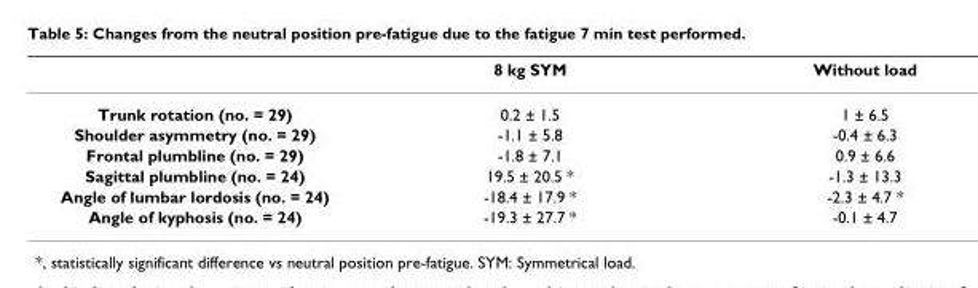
<table><thead><tr><td></td><td>8 kg SYM</td><td>Without load</td></tr></thead><tbody><tr><td>Trunk rotation (no. = 29)</td><td>0.2 ± 1.5</td><td>1 ± 6.5</td></tr><tr><td>Shoulder asymmetry (no. = 29)</td><td>-1.1 ± 5.8</td><td>-0.4 ± 6.3</td></tr><tr><td>Frontal plumbline (no. = 29)</td><td>-1.8 ± 7.1</td><td>0.9 ± 6.6</td></tr><tr><td>Sagittal plumbline (no. = 24)</td><td>19.5 ± 20.5 *</td><td>-1.3 ± 13.3</td></tr><tr><td>Angle of lumbar lordosis (no. = 24)</td><td>-18.4 ± 17.9 *</td><td>-2.3 ± 4.7 *</td></tr><tr><td>Angle of kyphosis (no. = 24)</td><td>-19.3 ± 27.7 *</td><td>-0.1 ± 4.7</td></tr></tbody></table>